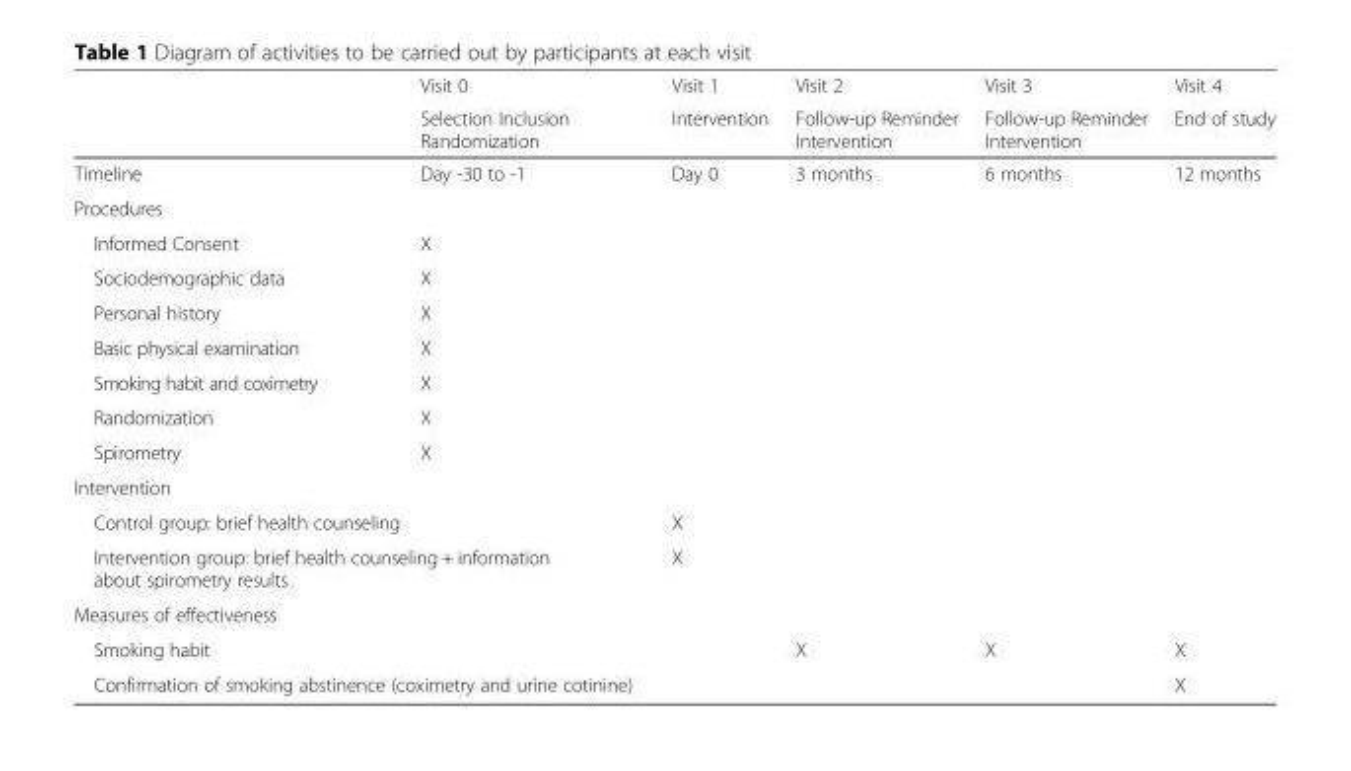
<table><thead><tr><td rowspan="2"></td><td rowspan="2">Visit 0 Selection Inclusion Randomization</td><td rowspan="2">Visit 1 Intervention</td><td rowspan="2">Visit 2 Follow-up Reminder Intervention</td><td rowspan="2">Visit 3 Follow-up Reminder Intervention</td><td rowspan="2">Visit 4 End of study</td></tr><tr></tr></thead><tbody><tr><td>Timeline</td><td>Day -30 to -1</td><td>Day 0</td><td>3 months</td><td>6 months</td><td>12 months</td></tr><tr><td colspan="6">Procedures</td></tr><tr><td>Informed Consent</td><td>X</td><td></td><td></td><td></td><td></td></tr><tr><td>Sociodemographic data</td><td>X</td><td></td><td></td><td></td><td></td></tr><tr><td>Personal history</td><td>X</td><td></td><td></td><td></td><td></td></tr><tr><td>Basic physical examination</td><td>X</td><td></td><td></td><td></td><td></td></tr><tr><td>Smoking habit and coximetry</td><td>X</td><td></td><td></td><td></td><td></td></tr><tr><td>Randomization</td><td>X</td><td></td><td></td><td></td><td></td></tr><tr><td>Spirometry</td><td>X</td><td></td><td></td><td></td><td></td></tr><tr><td colspan="6">Intervention</td></tr><tr><td colspan="2">Control group: brief health counseling</td><td>X</td><td></td><td></td><td></td></tr><tr><td colspan="2">Intervention group: brief health counseling + information about spirometry results</td><td>X</td><td></td><td></td><td></td></tr><tr><td colspan="6">Measures of effectiveness</td></tr><tr><td>Smoking habit</td><td></td><td></td><td>X</td><td>X</td><td>X</td></tr><tr><td colspan="2">Confirmation of smoking abstinence (coximetry and urine cotinine)</td><td></td><td></td><td></td><td>X</td></tr></tbody></table>